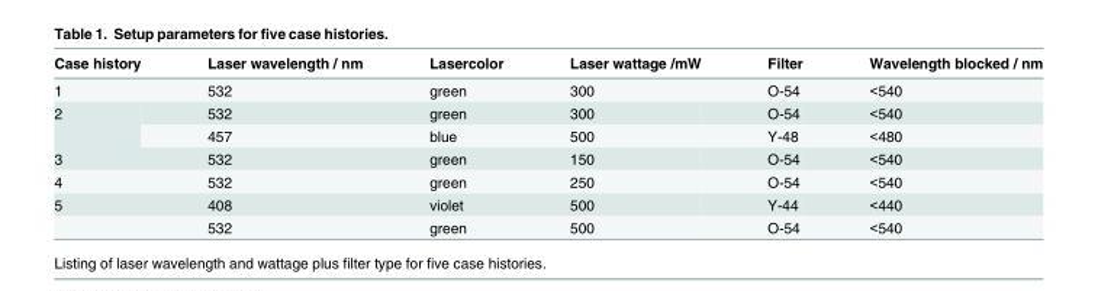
<table><thead><tr><td>Case history</td><td>Laser wavelength / nm</td><td>Lasercolor</td><td>Laser wattage /mW</td><td>Filter</td><td>Wavelength blocked / nm</td></tr></thead><tbody><tr><td>1</td><td>532</td><td>green</td><td>300</td><td>O-54</td><td>&lt;540</td></tr><tr><td rowspan="2">2</td><td>532</td><td>green</td><td>300</td><td>O-54</td><td>&lt;540</td></tr><tr><td>457</td><td>blue</td><td>500</td><td>Y-48</td><td>&lt;480</td></tr><tr><td>3</td><td>532</td><td>green</td><td>150</td><td>O-54</td><td>&lt;540</td></tr><tr><td>4</td><td>532</td><td>green</td><td>250</td><td>O-54</td><td>&lt;540</td></tr><tr><td rowspan="2">5</td><td>408</td><td>violet</td><td>500</td><td>Y-44</td><td>&lt;440</td></tr><tr><td>532</td><td>green</td><td>500</td><td>O-54</td><td>&lt;540</td></tr></tbody></table>